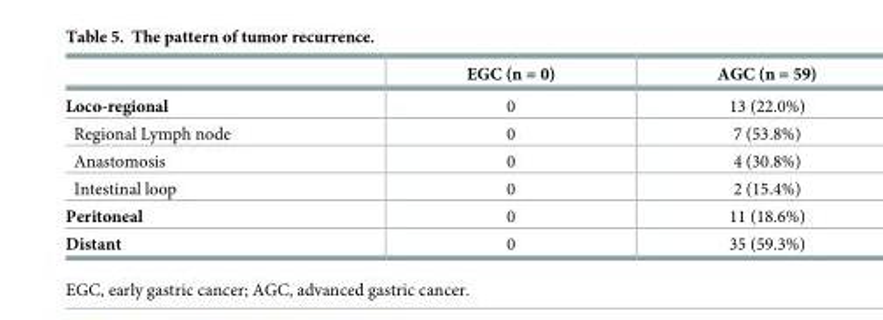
<table><thead><tr><td></td><td>EGC (n = 0)</td><td>AGC (n = 59)</td></tr></thead><tbody><tr><td>Loco-regional</td><td>0</td><td>13 (22.0%)</td></tr><tr><td>Regional Lymph node</td><td>0</td><td>7 (53.8%)</td></tr><tr><td>Anastomosis</td><td>0</td><td>4 (30.8%)</td></tr><tr><td>Intestinal loop</td><td>0</td><td>2 (15.4%)</td></tr><tr><td>Peritoneal</td><td>0</td><td>11 (18.6%)</td></tr><tr><td>Distant</td><td>0</td><td>35 (59.3%)</td></tr></tbody></table>